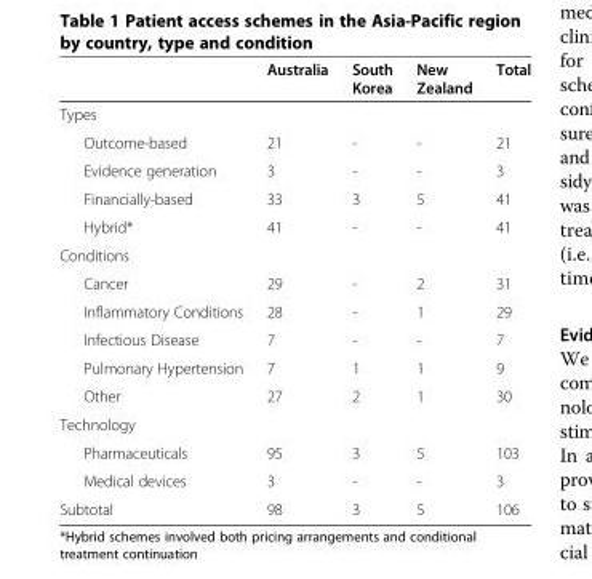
<table><thead><tr><td></td><td>Australia</td><td>South Korea</td><td>New Zealand</td><td>Total</td></tr></thead><tbody><tr><td colspan="5">Types</td></tr><tr><td>Outcome-based</td><td>21</td><td>-</td><td>-</td><td>21</td></tr><tr><td>Evidence generation</td><td>3</td><td>-</td><td>-</td><td>3</td></tr><tr><td>Financially-based</td><td>33</td><td>3</td><td>5</td><td>41</td></tr><tr><td>Hybrid*</td><td>41</td><td>-</td><td>-</td><td>41</td></tr><tr><td colspan="5">Conditions</td></tr><tr><td>Cancer</td><td>29</td><td>-</td><td>2</td><td>31</td></tr><tr><td>Inflammatory Conditions</td><td>28</td><td>-</td><td>1</td><td>29</td></tr><tr><td>Infectious Disease</td><td>7</td><td>-</td><td>-</td><td>7</td></tr><tr><td>Pulmonary Hypertension</td><td>7</td><td>1</td><td>1</td><td>9</td></tr><tr><td>Other</td><td>27</td><td>2</td><td>1</td><td>30</td></tr><tr><td colspan="5">Technology</td></tr><tr><td>Pharmaceuticals</td><td>95</td><td>3</td><td>5</td><td>103</td></tr><tr><td>Medical devices</td><td>3</td><td>-</td><td>-</td><td>3</td></tr><tr><td>Subtotal</td><td>98</td><td>3</td><td>5</td><td>106</td></tr></tbody></table>